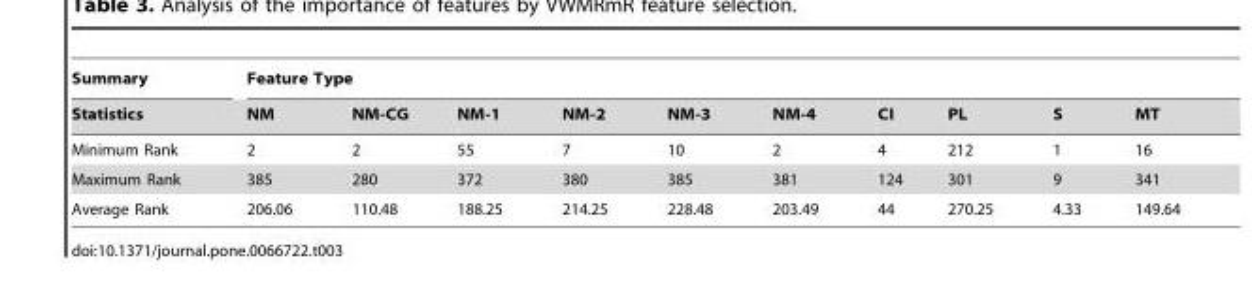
<table><thead><tr><td rowspan="2">Summary Statistics</td><td colspan="10">Feature Type</td></tr><tr><td>NM</td><td>NM-CG</td><td>NM-1</td><td>NM-2</td><td>NM-3</td><td>NM-4</td><td>CI</td><td>PL</td><td>S</td><td>MT</td></tr></thead><tbody><tr><td>Minimum Rank</td><td>2</td><td>2</td><td>55</td><td>7</td><td>10</td><td>2</td><td>4</td><td>212</td><td>1</td><td>16</td></tr><tr><td>Maximum Rank</td><td>385</td><td>280</td><td>372</td><td>380</td><td>385</td><td>381</td><td>124</td><td>301</td><td>9</td><td>341</td></tr><tr><td>Average Rank</td><td>206.06</td><td>110.48</td><td>188.25</td><td>214.25</td><td>228.48</td><td>203.49</td><td>44</td><td>270.25</td><td>4.33</td><td>149.64</td></tr></tbody></table>